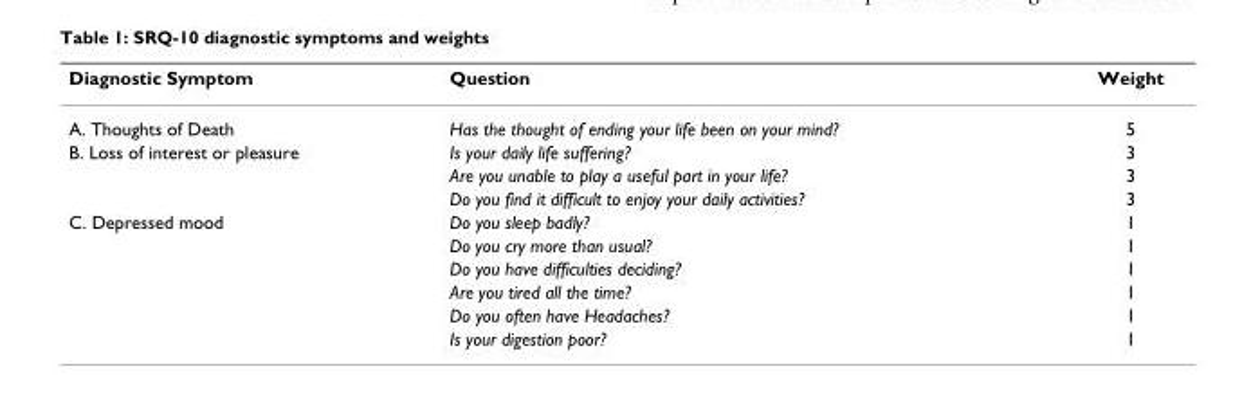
<table><thead><tr><td>Diagnostic Symptom</td><td>Question</td><td>Weight</td></tr></thead><tbody><tr><td>A. Thoughts of Death</td><td>Has the thought of ending your life been on your mind?</td><td>5</td></tr><tr><td rowspan="3">B. Loss of interest or pleasure</td><td>Is your daily life suffering?</td><td>3</td></tr><tr><td>Are you unable to play a useful part in your life?</td><td>3</td></tr><tr><td>Do you find it difficult to enjoy your daily activities?</td><td>3</td></tr><tr><td rowspan="6">C. Depressed mood</td><td>Do you sleep badly?</td><td>1</td></tr><tr><td>Do you cry more than usual?</td><td>1</td></tr><tr><td>Do you have difficulties deciding?</td><td>1</td></tr><tr><td>Are you tired all the time?</td><td>1</td></tr><tr><td>Do you often have Headaches?</td><td>1</td></tr><tr><td>Is your digestion poor?</td><td>1</td></tr></tbody></table>